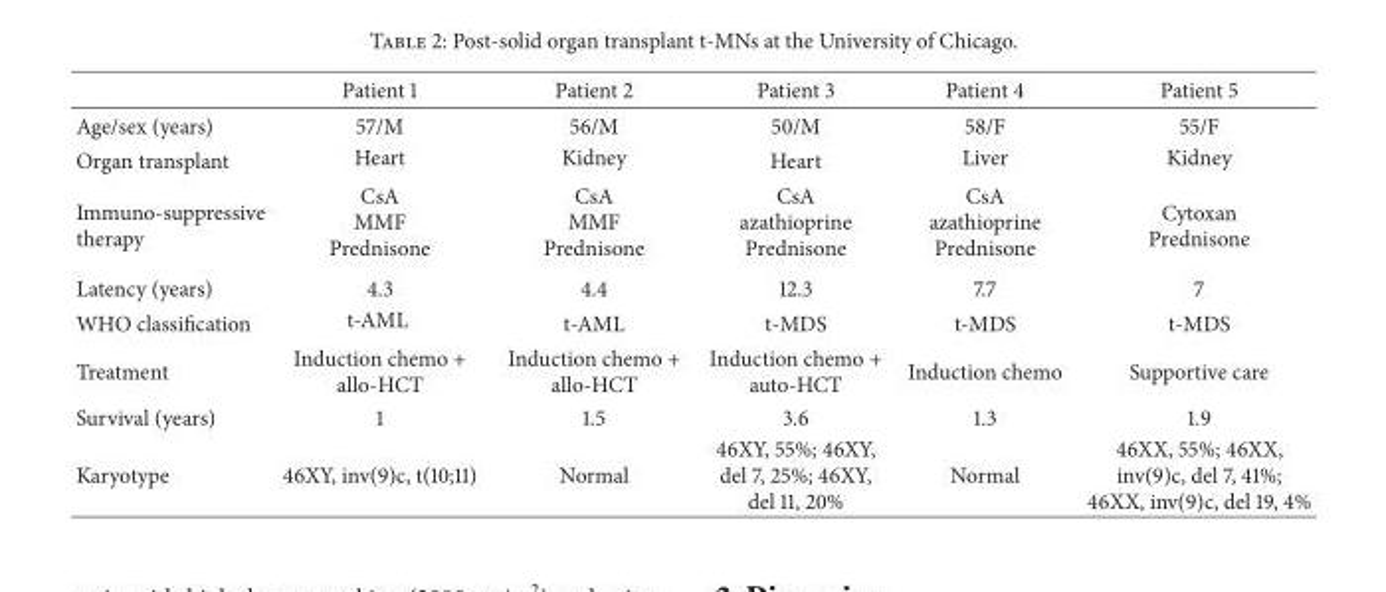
<table><thead><tr><td></td><td>Patient 1</td><td>Patient 2</td><td>Patient 3</td><td>Patient 4</td><td>Patient 5</td></tr></thead><tbody><tr><td>Age/sex (years)</td><td>57/M</td><td>56/M</td><td>50/M</td><td>58/F</td><td>55/F</td></tr><tr><td>Organ transplant</td><td>Heart</td><td>Kidney</td><td>Heart</td><td>Liver</td><td>Kidney</td></tr><tr><td>Immuno-suppressive therapy</td><td>CsA MMF Prednisone</td><td>CsA MMF Prednisone</td><td>CsA azathioprine Prednisone</td><td>CsA azathioprine Prednisone</td><td>Cytoxan Prednisone</td></tr><tr><td>Latency (years)</td><td>4.3</td><td>4.4</td><td>12.3</td><td>7.7</td><td>7</td></tr><tr><td>WHO classification</td><td>t-AML</td><td>t-AML</td><td>t-MDS</td><td>t-MDS</td><td>t-MDS</td></tr><tr><td>Treatment</td><td>Induction chemo + allo-HCT</td><td>Induction chemo + allo-HCT</td><td>Induction chemo + auto-HCT</td><td>Induction chemo</td><td>Supportive care</td></tr><tr><td>Survival (years)</td><td>1</td><td>1.5</td><td>3.6</td><td>1.3</td><td>1.9</td></tr><tr><td>Karyotype</td><td>46XY, inv(9)c, t(10;11)</td><td>Normal</td><td>46XY, 55%; 46XY, del 7, 25%; 46XY, del 11, 20%</td><td>Normal</td><td>46XX, 55%; 46XX, inv(9)c, del 7, 41%; 46XX, inv(9)c, del 19, 4%</td></tr></tbody></table>